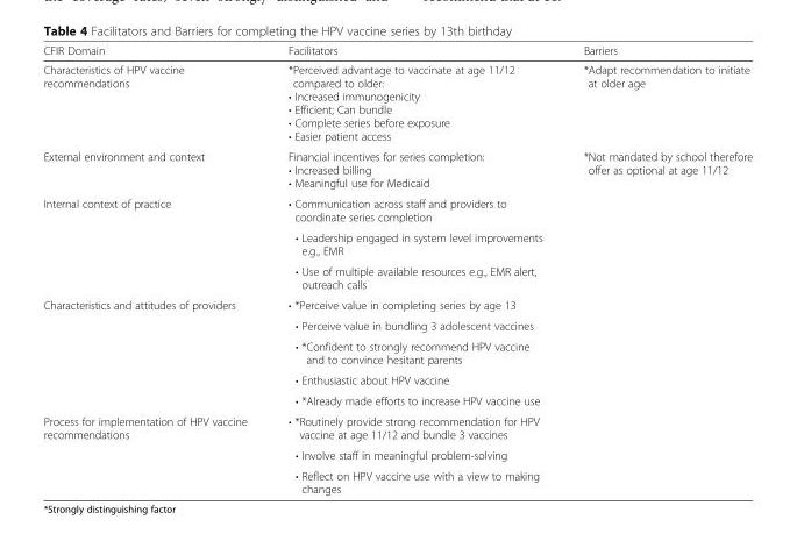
<table><thead><tr><td>CFIR Domain</td><td>Facilitators</td><td>Barriers</td></tr></thead><tbody><tr><td>Characteristics of HPV vaccine recommendations</td><td>*Perceived advantage to vaccinate at age 11/12 compared to older: • Increased immunogenicity • Efficient; Can bundle • Complete series before exposure • Easier patient access</td><td>*Adapt recommendation to initiate at older age</td></tr><tr><td>External environment and context</td><td>Financial incentives for series completion: • Increased billing • Meaningful use for Medicaid</td><td>*Not mandated by school therefore offer as optional at age 11/12</td></tr><tr><td rowspan="3">Internal context of practice</td><td>• Communication across staff and providers to coordinate series completion</td><td></td></tr><tr><td>• Leadership engaged in system level improvements e.g., EMR</td><td></td></tr><tr><td>• Use of multiple available resources e.g., EMR alert, outreach calls</td><td></td></tr><tr><td rowspan="5">Characteristics and attitudes of providers</td><td>• *Perceive value in completing series by age 13</td><td></td></tr><tr><td>• Perceive value in bundling 3 adolescent vaccines</td><td></td></tr><tr><td>• *Confident to strongly recommend HPV vaccine and to convince hesitant parents</td><td></td></tr><tr><td>• Enthusiastic about HPV vaccine</td><td></td></tr><tr><td>• *Already made efforts to increase HPV vaccine use</td><td></td></tr><tr><td rowspan="3">Process for implementation of HPV vaccine recommendations</td><td>• *Routinely provide strong recommendation for HPV vaccine at age 11/12 and bundle 3 vaccines</td><td></td></tr><tr><td>• Involve staff in meaningful problem-solving</td><td></td></tr><tr><td>• Reflect on HPV vaccine use with a view to making changes</td><td></td></tr></tbody></table>